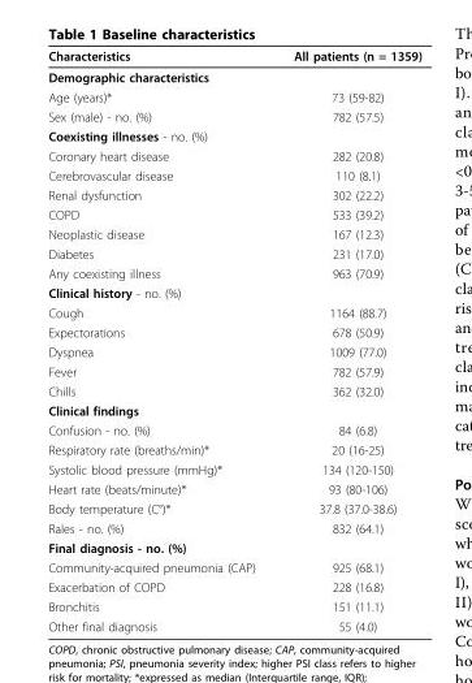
<table><thead><tr><td>Characteristics</td><td>All patients (n = 1359)</td></tr></thead><tbody><tr><td colspan="2">Demographic characteristics</td></tr><tr><td>Age (years)*</td><td>73 (59-82)</td></tr><tr><td>Sex (male) - no. (%)</td><td>782 (57.5)</td></tr><tr><td colspan="2">Coexisting illnesses - no. (%)</td></tr><tr><td>Coronary heart disease</td><td>282 (20.8)</td></tr><tr><td>Cerebrovascular disease</td><td>110 (8.1)</td></tr><tr><td>Renal dysfunction</td><td>302 (22.2)</td></tr><tr><td>COPD</td><td>533 (39.2)</td></tr><tr><td>Neoplastic disease</td><td>167 (12.3)</td></tr><tr><td>Diabetes</td><td>231 (17.0)</td></tr><tr><td>Any coexisting illness</td><td>963 (70.9)</td></tr><tr><td colspan="2">Clinical history - no. (%)</td></tr><tr><td>Cough</td><td>1164 (88.7)</td></tr><tr><td>Expectorations</td><td>678 (50.9)</td></tr><tr><td>Dyspnea</td><td>1009 (77.0)</td></tr><tr><td>Fever</td><td>782 (57.9)</td></tr><tr><td>Chills</td><td>362 (32.0)</td></tr><tr><td colspan="2">Clinical findings</td></tr><tr><td>Confusion - no. (%)</td><td>84 (6.8)</td></tr><tr><td>Respiratory rate (breaths/min)*</td><td>20 (16-25)</td></tr><tr><td>Systolic blood pressure (mmHg)*</td><td>134 (120-150)</td></tr><tr><td>Heart rate (beats/minute)*</td><td>93 (80-106)</td></tr><tr><td>Body temperature (C°)*</td><td>37.8 (37.0-38.6)</td></tr><tr><td>Rales - no. (%)</td><td>832 (64.1)</td></tr><tr><td colspan="2">Final diagnosis - no. (%)</td></tr><tr><td>Community-acquired pneumonia (CAP)</td><td>925 (68.1)</td></tr><tr><td>Exacerbation of COPD</td><td>228 (16.8)</td></tr><tr><td>Bronchitis</td><td>151 (11.1)</td></tr><tr><td>Other final diagnosis</td><td>55 (4.0)</td></tr></tbody></table>